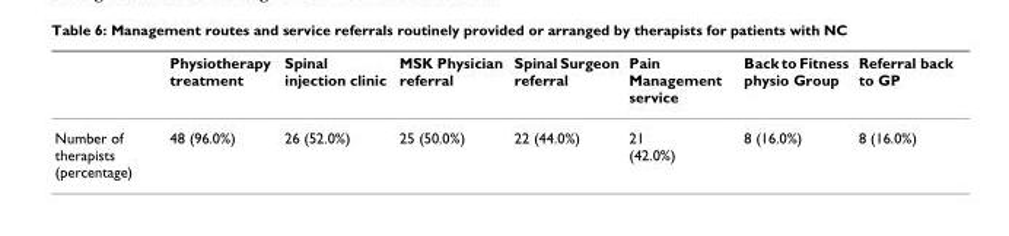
<table><thead><tr><td></td><td>Physiotherapy treatment</td><td>Spinal injection clinic</td><td>MSK Physician referral</td><td>Spinal Surgeon referral</td><td>Pain Management service</td><td>Back to Fitness physio Group</td><td>Referral back to GP</td></tr></thead><tbody><tr><td>Number of therapists (percentage)</td><td>48 (96.0%)</td><td>26 (52.0%)</td><td>25 (50.0%)</td><td>22 (44.0%)</td><td>21 (42.0%)</td><td>8 (16.0%)</td><td>8 (16.0%)</td></tr></tbody></table>